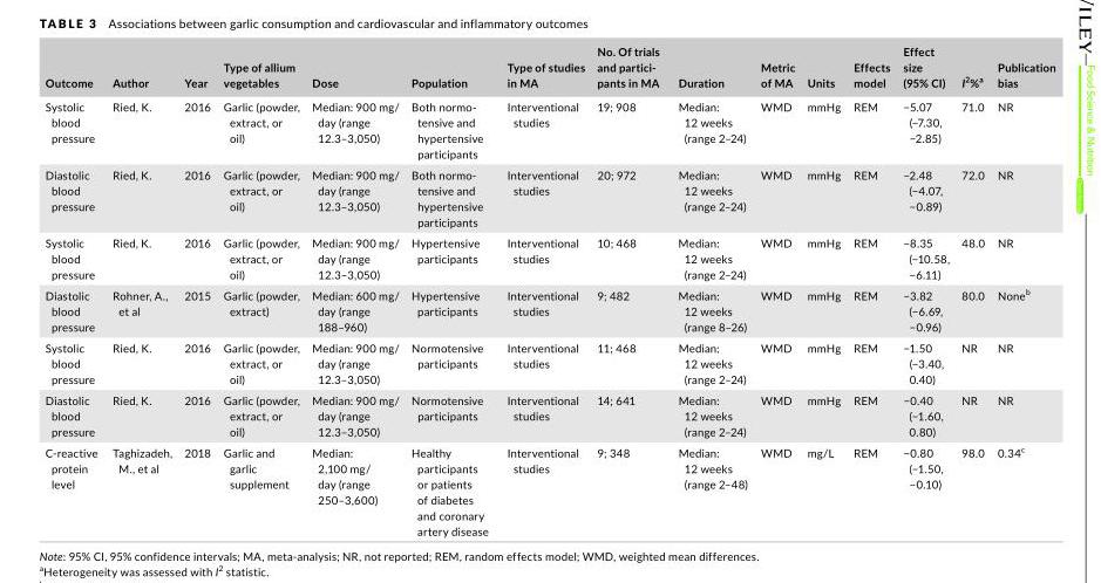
<table><thead><tr><td>Outcome</td><td>Author</td><td>Year</td><td>Type of allium vegetables</td><td>Dose</td><td>Population</td><td>Type of studies in MA</td><td>No. Of trials and partici‐ pants in MA</td><td>Duration</td><td>Metric of MA</td><td>Units</td><td>Effects model</td><td>Effect size (95% CI)</td><td>I<sup>2</sup>%<sup>a</sup></td><td>Publication bias</td></tr></thead><tbody><tr><td>Systolic blood pressure</td><td>Ried, K.</td><td>2016</td><td>Garlic (powder, extract, or oil)</td><td>Median: 900 mg/ day (range 12.3–3,050)</td><td>Both normo- tensive and hypertensive participants</td><td>Interventional studies</td><td>19; 908</td><td>Median: 12 weeks (range 2–24)</td><td>WMD</td><td>mmHg</td><td>REM</td><td>−5.07 (−7.30, −2.85)</td><td>71.0</td><td>NR</td></tr><tr><td>Diastolic blood pressure</td><td>Ried, K.</td><td>2016</td><td>Garlic (powder, extract, or oil)</td><td>Median: 900 mg/ day (range 12.3–3,050)</td><td>Both normo- tensive and hypertensive participants</td><td>Interventional studies</td><td>20; 972</td><td>Median: 12 weeks (range 2–24)</td><td>WMD</td><td>mmHg</td><td>REM</td><td>−2.48 (−4.07, −0.89)</td><td>72.0</td><td>NR</td></tr><tr><td>Systolic blood pressure</td><td>Ried, K.</td><td>2016</td><td>Garlic (powder, extract, or oil)</td><td>Median: 900 mg/ day (range 12.3–3,050)</td><td>Hypertensive participants</td><td>Interventional studies</td><td>10; 468</td><td>Median: 12 weeks (range 2–24)</td><td>WMD</td><td>mmHg</td><td>REM</td><td>−8.35 (−10.58, −6.11)</td><td>48.0</td><td>NR</td></tr><tr><td>Diastolic blood pressure</td><td>Rohner, A., et al</td><td>2015</td><td>Garlic (powder, extract)</td><td>Median: 600 mg/ day (range 188–960)</td><td>Hypertensive participants</td><td>Interventional studies</td><td>9; 482</td><td>Median: 12 weeks (range 8–26)</td><td>WMD</td><td>mmHg</td><td>REM</td><td>−3.82 (−6.69, −0.96)</td><td>80.0</td><td>None<sup>b</sup></td></tr><tr><td>Systolic blood pressure</td><td>Ried, K.</td><td>2016</td><td>Garlic (powder, extract, or oil)</td><td>Median: 900 mg/ day (range 12.3–3,050)</td><td>Normotensive participants</td><td>Interventional studies</td><td>11; 468</td><td>Median: 12 weeks (range 2–24)</td><td>WMD</td><td>mmHg</td><td>REM</td><td>−1.50 (−3.40, 0.40)</td><td>NR</td><td>NR</td></tr><tr><td>Diastolic blood pressure</td><td>Ried, K.</td><td>2016</td><td>Garlic (powder, extract, or oil)</td><td>Median: 900 mg/ day (range 12.3–3,050)</td><td>Normotensive participants</td><td>Interventional studies</td><td>14; 641</td><td>Median: 12 weeks (range 2–24)</td><td>WMD</td><td>mmHg</td><td>REM</td><td>−0.40 (−1.60, 0.80)</td><td>NR</td><td>NR</td></tr><tr><td>C-reactive protein level</td><td>Taghizadeh, M., et al</td><td>2018</td><td>Garlic and garlic supplement</td><td>Median: 2,100 mg/ day (range 250–3,600)</td><td>Healthy participants or patients of diabetes and coronary artery disease</td><td>Interventional studies</td><td>9; 348</td><td>Median: 12 weeks (range 2–48)</td><td>WMD</td><td>mg/L</td><td>REM</td><td>−0.80 (−1.50, −0.10)</td><td>98.0</td><td>0.34<sup>c</sup></td></tr></tbody></table>